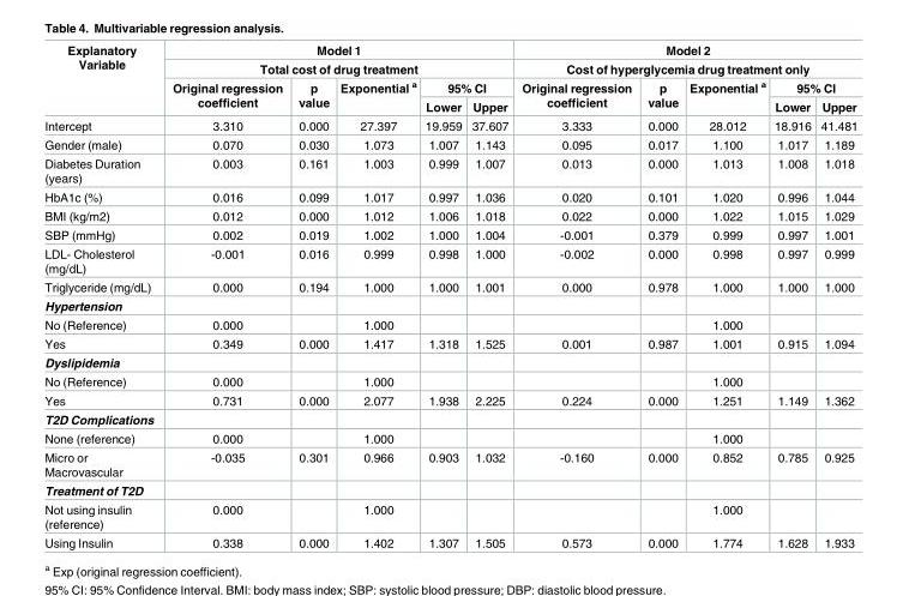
<table><thead><tr><td rowspan="4">Explanatory Variable</td><td rowspan="2" colspan="5">Model 1 Total cost of drug treatment</td><td rowspan="2" colspan="5">Model 2 Cost of hyperglycemia drug treatment only</td></tr><tr></tr><tr><td rowspan="2">Original regression coefficient</td><td rowspan="2">p value</td><td rowspan="2">Exponential <sup>a</sup></td><td colspan="2">95% CI</td><td rowspan="2">Original regression coefficient</td><td rowspan="2">p value</td><td rowspan="2">Exponential <sup>a</sup></td><td colspan="2">95% CI</td></tr><tr><td>Lower</td><td>Upper</td><td>Lower</td><td>Upper</td></tr></thead><tbody><tr><td>Intercept</td><td>3.310</td><td>0.000</td><td>27.397</td><td>19.959</td><td>37.607</td><td>3.333</td><td>0.000</td><td>28.012</td><td>18.916</td><td>41.481</td></tr><tr><td>Gender (male)</td><td>0.070</td><td>0.030</td><td>1.073</td><td>1.007</td><td>1.143</td><td>0.095</td><td>0.017</td><td>1.100</td><td>1.017</td><td>1.189</td></tr><tr><td>Diabetes Duration (years)</td><td>0.003</td><td>0.161</td><td>1.003</td><td>0.999</td><td>1.007</td><td>0.013</td><td>0.000</td><td>1.013</td><td>1.008</td><td>1.018</td></tr><tr><td>HbA1c (%)</td><td>0.016</td><td>0.099</td><td>1.017</td><td>0.997</td><td>1.036</td><td>0.020</td><td>0.101</td><td>1.020</td><td>0.996</td><td>1.044</td></tr><tr><td>BMI (kg/m2)</td><td>0.012</td><td>0.000</td><td>1.012</td><td>1.006</td><td>1.018</td><td>0.022</td><td>0.000</td><td>1.022</td><td>1.015</td><td>1.029</td></tr><tr><td>SBP (mmHg)</td><td>0.002</td><td>0.019</td><td>1.002</td><td>1.000</td><td>1.004</td><td>-0.001</td><td>0.379</td><td>0.999</td><td>0.997</td><td>1.001</td></tr><tr><td>LDL- Cholesterol (mg/dL)</td><td>-0.001</td><td>0.016</td><td>0.999</td><td>0.998</td><td>1.000</td><td>-0.002</td><td>0.000</td><td>0.998</td><td>0.997</td><td>0.999</td></tr><tr><td>Triglyceride (mg/dL)</td><td>0.000</td><td>0.194</td><td>1.000</td><td>1.000</td><td>1.001</td><td>0.000</td><td>0.978</td><td>1.000</td><td>1.000</td><td>1.000</td></tr><tr><td colspan="11">Hypertension</td></tr><tr><td>No (Reference)</td><td>0.000</td><td></td><td>1.000</td><td></td><td></td><td></td><td></td><td>1.000</td><td></td><td></td></tr><tr><td>Yes</td><td>0.349</td><td>0.000</td><td>1.417</td><td>1.318</td><td>1.525</td><td>0.001</td><td>0.987</td><td>1.001</td><td>0.915</td><td>1.094</td></tr><tr><td colspan="11">Dyslipidemia</td></tr><tr><td>No (Reference)</td><td>0.000</td><td></td><td>1.000</td><td></td><td></td><td></td><td></td><td>1.000</td><td></td><td></td></tr><tr><td>Yes</td><td>0.731</td><td>0.000</td><td>2.077</td><td>1.938</td><td>2.225</td><td>0.224</td><td>0.000</td><td>1.251</td><td>1.149</td><td>1.362</td></tr><tr><td colspan="11">T2D Complications</td></tr><tr><td>None (reference)</td><td>0.000</td><td></td><td>1.000</td><td></td><td></td><td></td><td></td><td>1.000</td><td></td><td></td></tr><tr><td>Micro or Macrovascular</td><td>-0.035</td><td>0.301</td><td>0.966</td><td>0.903</td><td>1.032</td><td>-0.160</td><td>0.000</td><td>0.852</td><td>0.785</td><td>0.925</td></tr><tr><td colspan="11">Treatment of T2D</td></tr><tr><td>Not using insulin (reference)</td><td>0.000</td><td></td><td>1.000</td><td></td><td></td><td></td><td></td><td>1.000</td><td></td><td></td></tr><tr><td>Using Insulin</td><td>0.338</td><td>0.000</td><td>1.402</td><td>1.307</td><td>1.505</td><td>0.573</td><td>0.000</td><td>1.774</td><td>1.628</td><td>1.933</td></tr></tbody></table>